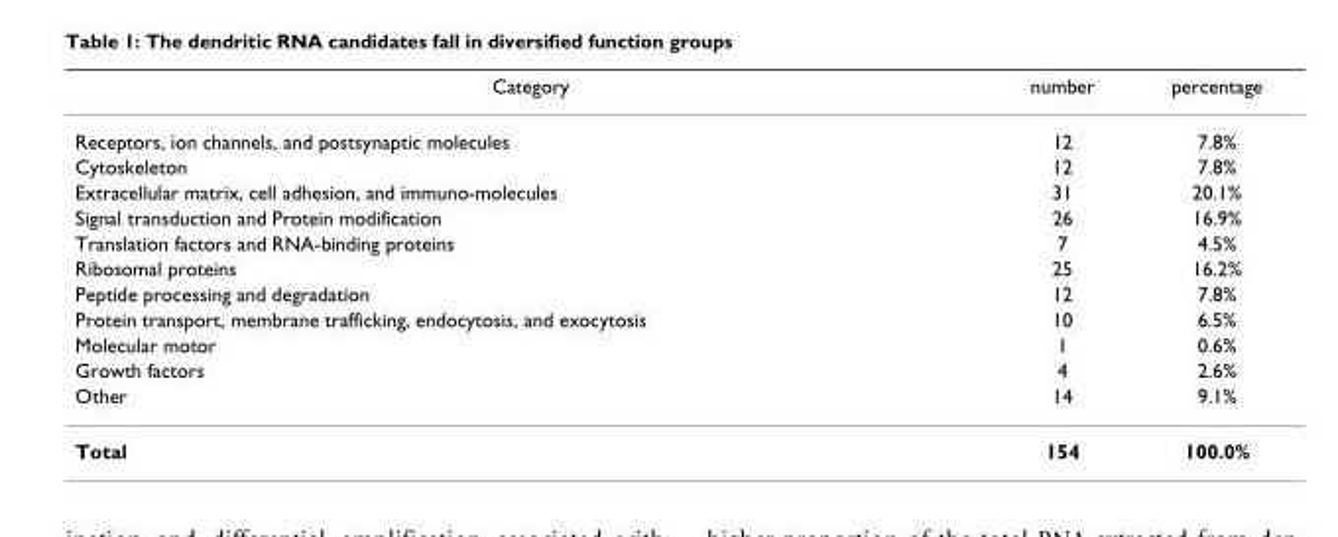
<table><thead><tr><td>Category</td><td>number</td><td>percentage</td></tr></thead><tbody><tr><td>Receptors, ion channels, and postsynaptic molecules</td><td>12</td><td>7.8%</td></tr><tr><td>Cytoskeleton</td><td>12</td><td>7.8%</td></tr><tr><td>Extracellular matrix, cell adhesion, and immuno-molecules</td><td>31</td><td>20.1%</td></tr><tr><td>Signal transduction and Protein modification</td><td>26</td><td>16.9%</td></tr><tr><td>Translation factors and RNA-binding proteins</td><td>7</td><td>4.5%</td></tr><tr><td>Ribosomal proteins</td><td>25</td><td>16.2%</td></tr><tr><td>Peptide processing and degradation</td><td>12</td><td>7.8%</td></tr><tr><td>Protein transport, membrane trafficking, endocytosis, and exocytosis</td><td>10</td><td>6.5%</td></tr><tr><td>Molecular motor</td><td>1</td><td>0.6%</td></tr><tr><td>Growth factors</td><td>4</td><td>2.6%</td></tr><tr><td>Other</td><td>14</td><td>9.1%</td></tr><tr><td>Total</td><td>154</td><td>100.0%</td></tr></tbody></table>